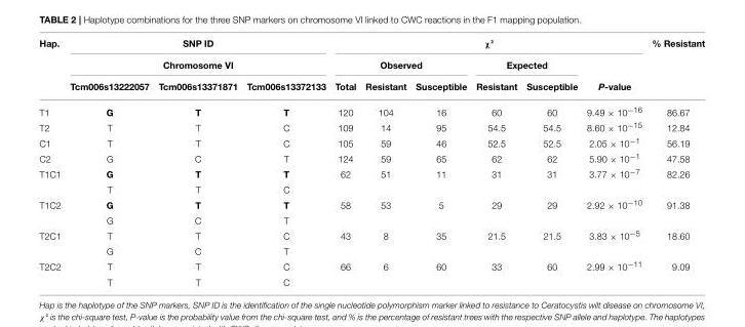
<table><thead><tr><td rowspan="3">Hap.</td><td rowspan="2" colspan="3">SNP ID Chromosome VI</td><td colspan="6">χ²</td><td rowspan="3">% Resistant</td></tr><tr><td colspan="3">Observed</td><td colspan="2">Expected</td><td rowspan="2">P-value</td></tr><tr><td>Tcm006s13222057</td><td>Tcm006s13371871</td><td>Tcm006s13372133</td><td>Total</td><td>Resistant</td><td>Susceptible</td><td>Resistant</td><td>Susceptible</td></tr></thead><tbody><tr><td>T1</td><td>G</td><td>T</td><td>T</td><td>120</td><td>104</td><td>16</td><td>60</td><td>60</td><td>9.49 × 10<sup>−16</sup></td><td>86.67</td></tr><tr><td>T2</td><td>T</td><td>T</td><td>C</td><td>109</td><td>14</td><td>95</td><td>54.5</td><td>54.5</td><td>8.60 × 10<sup>−15</sup></td><td>12.84</td></tr><tr><td>C1</td><td>T</td><td>T</td><td>C</td><td>105</td><td>59</td><td>46</td><td>52.5</td><td>52.5</td><td>2.05 × 10<sup>−1</sup></td><td>56.19</td></tr><tr><td>C2</td><td>G</td><td>C</td><td>T</td><td>124</td><td>59</td><td>65</td><td>62</td><td>62</td><td>5.90 × 10<sup>−1</sup></td><td>47.58</td></tr><tr><td rowspan="2">T1C1</td><td>G</td><td>T</td><td>T</td><td>62</td><td>51</td><td>11</td><td>31</td><td>31</td><td>3.77 × 10<sup>−7</sup></td><td>82.26</td></tr><tr><td>T</td><td>T</td><td>C</td><td></td><td></td><td></td><td></td><td></td><td></td><td></td></tr><tr><td rowspan="2">T1C2</td><td>G</td><td>T</td><td>T</td><td>58</td><td>53</td><td>5</td><td>29</td><td>29</td><td>2.92 × 10<sup>−10</sup></td><td>91.38</td></tr><tr><td>G</td><td>C</td><td>T</td><td></td><td></td><td></td><td></td><td></td><td></td><td></td></tr><tr><td rowspan="2">T2C1</td><td>T</td><td>T</td><td>C</td><td>43</td><td>8</td><td>35</td><td>21.5</td><td>21.5</td><td>3.83 × 10<sup>−5</sup></td><td>18.60</td></tr><tr><td>G</td><td>C</td><td>T</td><td></td><td></td><td></td><td></td><td></td><td></td><td></td></tr><tr><td rowspan="2">T2C2</td><td>T</td><td>T</td><td>C</td><td>66</td><td>6</td><td>60</td><td>33</td><td>60</td><td>2.99 × 10<sup>−11</sup></td><td>9.09</td></tr><tr><td>T</td><td>T</td><td>C</td><td></td><td></td><td></td><td></td><td></td><td></td><td></td></tr></tbody></table>